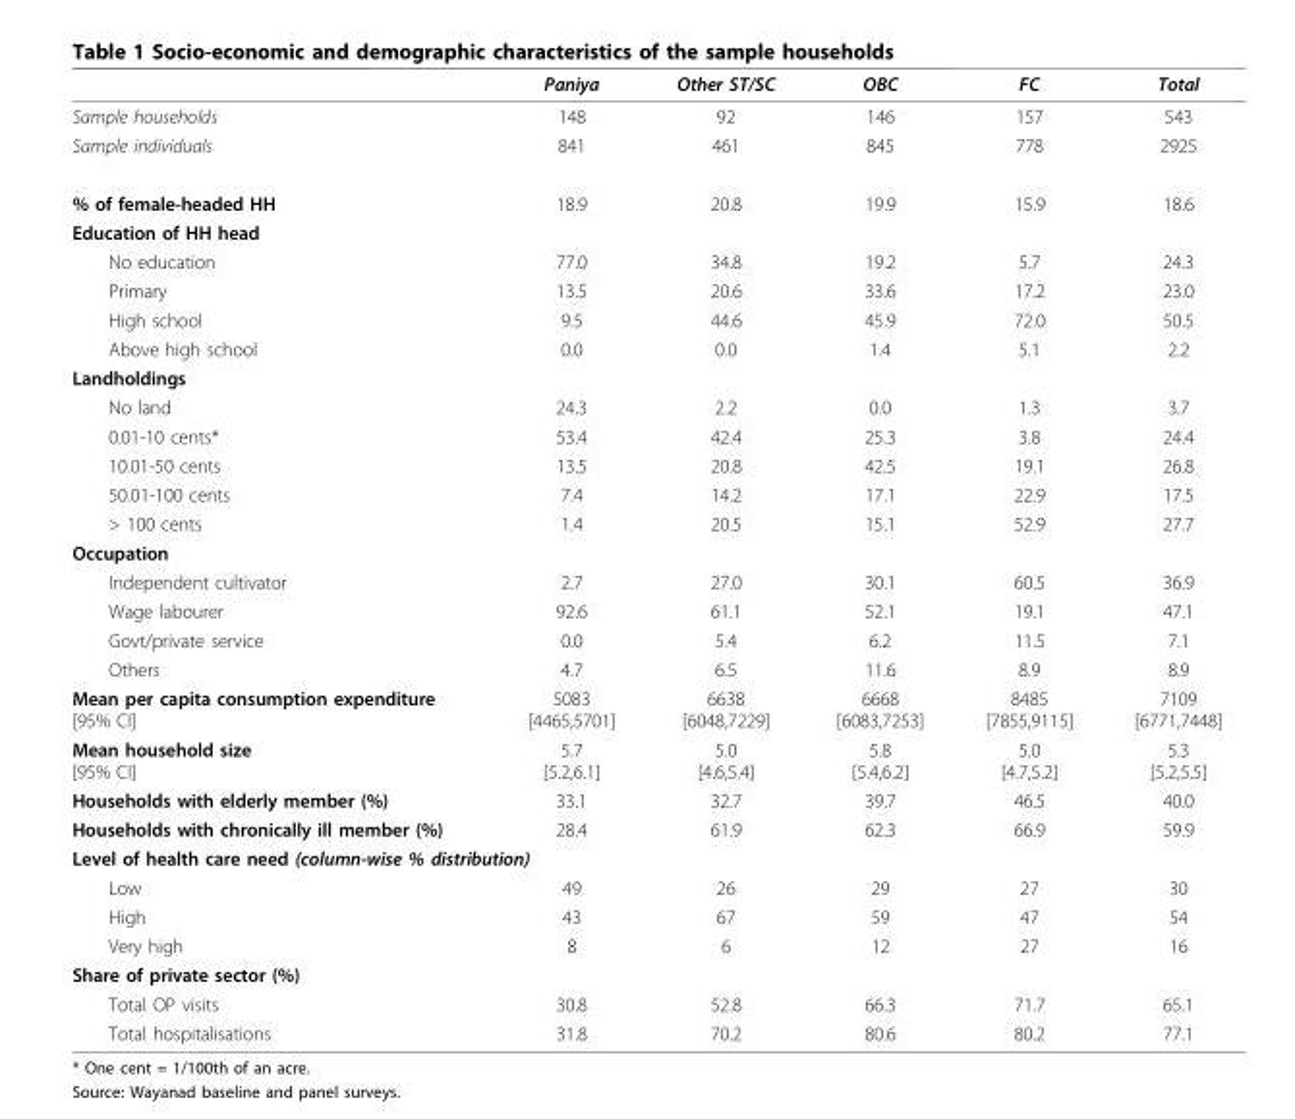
<table><thead><tr><td></td><td>Paniya</td><td>Other ST/SC</td><td>OBC</td><td>FC</td><td>Total</td></tr></thead><tbody><tr><td>Sample households</td><td>148</td><td>92</td><td>146</td><td>157</td><td>543</td></tr><tr><td>Sample individuals</td><td>841</td><td>461</td><td>845</td><td>778</td><td>2925</td></tr><tr><td>% of female-headed HH</td><td>18.9</td><td>20.8</td><td>19.9</td><td>15.9</td><td>18.6</td></tr><tr><td colspan="6">Education of HH head</td></tr><tr><td>No education</td><td>77.0</td><td>34.8</td><td>19.2</td><td>5.7</td><td>24.3</td></tr><tr><td>Primary</td><td>13.5</td><td>20.6</td><td>33.6</td><td>17.2</td><td>23.0</td></tr><tr><td>High school</td><td>9.5</td><td>44.6</td><td>45.9</td><td>72.0</td><td>50.5</td></tr><tr><td>Above high school</td><td>0.0</td><td>0.0</td><td>1.4</td><td>5.1</td><td>2.2</td></tr><tr><td colspan="6">Landholdings</td></tr><tr><td>No land</td><td>24.3</td><td>2.2</td><td>0.0</td><td>1.3</td><td>3.7</td></tr><tr><td>0.01-10 cents*</td><td>53.4</td><td>42.4</td><td>25.3</td><td>3.8</td><td>24.4</td></tr><tr><td>10.01-50 cents</td><td>13.5</td><td>20.8</td><td>42.5</td><td>19.1</td><td>26.8</td></tr><tr><td>50.01-100 cents</td><td>7.4</td><td>14.2</td><td>17.1</td><td>22.9</td><td>17.5</td></tr><tr><td>&gt; 100 cents</td><td>1.4</td><td>20.5</td><td>15.1</td><td>52.9</td><td>27.7</td></tr><tr><td colspan="6">Occupation</td></tr><tr><td>Independent cultivator</td><td>2.7</td><td>27.0</td><td>30.1</td><td>60.5</td><td>36.9</td></tr><tr><td>Wage labourer</td><td>92.6</td><td>61.1</td><td>52.1</td><td>19.1</td><td>47.1</td></tr><tr><td>Govt/private service</td><td>0.0</td><td>5.4</td><td>6.2</td><td>11.5</td><td>7.1</td></tr><tr><td>Others</td><td>4.7</td><td>6.5</td><td>11.6</td><td>8.9</td><td>8.9</td></tr><tr><td>Mean per capita consumption expenditure [95% CI]</td><td>5083 [4465,5701]</td><td>6638 [6048,7229]</td><td>6668 [6083,7253]</td><td>8485 [7855,9115]</td><td>7109 [6771,7448]</td></tr><tr><td>Mean household size [95% CI]</td><td>5.7 [5.2,6.1]</td><td>5.0 [4.6,5.4]</td><td>5.8 [5.4,6.2]</td><td>5.0 [4.7,5.2]</td><td>5.3 [5.2,5.5]</td></tr><tr><td>Households with elderly member (%)</td><td>33.1</td><td>32.7</td><td>39.7</td><td>46.5</td><td>40.0</td></tr><tr><td>Households with chronically ill member (%)</td><td>28.4</td><td>61.9</td><td>62.3</td><td>66.9</td><td>59.9</td></tr><tr><td colspan="6">Level of health care need (column-wise % distribution)</td></tr><tr><td>Low</td><td>49</td><td>26</td><td>29</td><td>27</td><td>30</td></tr><tr><td>High</td><td>43</td><td>67</td><td>59</td><td>47</td><td>54</td></tr><tr><td>Very high</td><td>8</td><td>6</td><td>12</td><td>27</td><td>16</td></tr><tr><td colspan="6">Share of private sector (%)</td></tr><tr><td>Total OP visits</td><td>30.8</td><td>52.8</td><td>66.3</td><td>71.7</td><td>65.1</td></tr><tr><td>Total hospitalisations</td><td>31.8</td><td>70.2</td><td>80.6</td><td>80.2</td><td>77.1</td></tr></tbody></table>